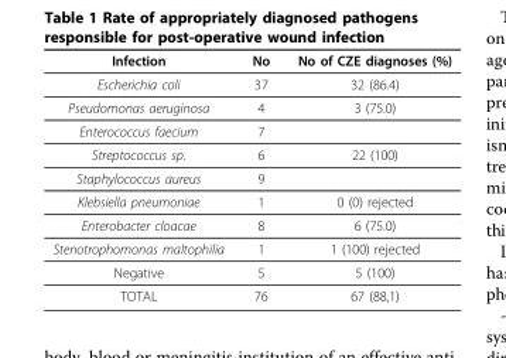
<table><thead><tr><td>Infection</td><td>No</td><td>No of CZE diagnoses (%)</td></tr></thead><tbody><tr><td>Escherichia coli</td><td>37</td><td>32 (86.4)</td></tr><tr><td>Pseudomonas aeruginosa</td><td>4</td><td>3 (75.0)</td></tr><tr><td>Enterococcus faecium</td><td>7</td><td></td></tr><tr><td>Streptococcus sp.</td><td>6</td><td>22 (100)</td></tr><tr><td>Staphylococcus aureus</td><td>9</td><td></td></tr><tr><td>Klebsiella pneumoniae</td><td>1</td><td>0 (0) rejected</td></tr><tr><td>Enterobacter cloacae</td><td>8</td><td>6 (75.0)</td></tr><tr><td>Stenotrophomonas maltophilia</td><td>1</td><td>1 (100) rejected</td></tr><tr><td>Negative</td><td>5</td><td>5 (100)</td></tr><tr><td>TOTAL</td><td>76</td><td>67 (88,1)</td></tr></tbody></table>